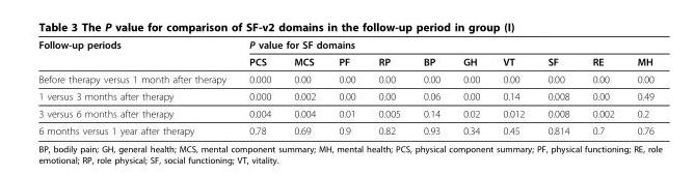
<table><thead><tr><td rowspan="2">Follow-up periods</td><td colspan="10">P value for SF domains</td></tr><tr><td>PCS</td><td>MCS</td><td>PF</td><td>RP</td><td>BP</td><td>GH</td><td>VT</td><td>SF</td><td>RE</td><td>MH</td></tr></thead><tbody><tr><td>Before therapy versus 1 month after therapy</td><td>0.000</td><td>0.00</td><td>0.00</td><td>0.00</td><td>0.00</td><td>0.00</td><td>0.00</td><td>0.00</td><td>0.00</td><td>0.00</td></tr><tr><td>1 versus 3 months after therapy</td><td>0.000</td><td>0.002</td><td>0.00</td><td>0.00</td><td>0.06</td><td>0.00</td><td>0.14</td><td>0.008</td><td>0.00</td><td>0.49</td></tr><tr><td>3 versus 6 months after therapy</td><td>0.004</td><td>0.004</td><td>0.01</td><td>0.005</td><td>0.14</td><td>0.02</td><td>0.012</td><td>0.008</td><td>0.002</td><td>0.2</td></tr><tr><td>6 months versus 1 year after therapy</td><td>0.78</td><td>0.69</td><td>0.9</td><td>0.82</td><td>0.93</td><td>0.34</td><td>0.45</td><td>0.814</td><td>0.7</td><td>0.76</td></tr></tbody></table>